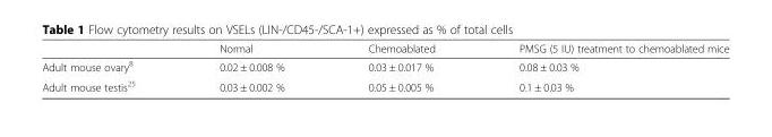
<table><thead><tr><td></td><td>Normal</td><td>Chemoablated</td><td>PMSG (5 IU) treatment to chemoablated mice</td></tr></thead><tbody><tr><td>Adult mouse ovary<sup>8</sup></td><td>0.02 ± 0.008 %</td><td>0.03 ± 0.017 %</td><td>0.08 ± 0.03 %</td></tr><tr><td>Adult mouse testis<sup>25</sup></td><td>0.03 ± 0.002 %</td><td>0.05 ± 0.005 %</td><td>0.1 ± 0.03 %</td></tr></tbody></table>